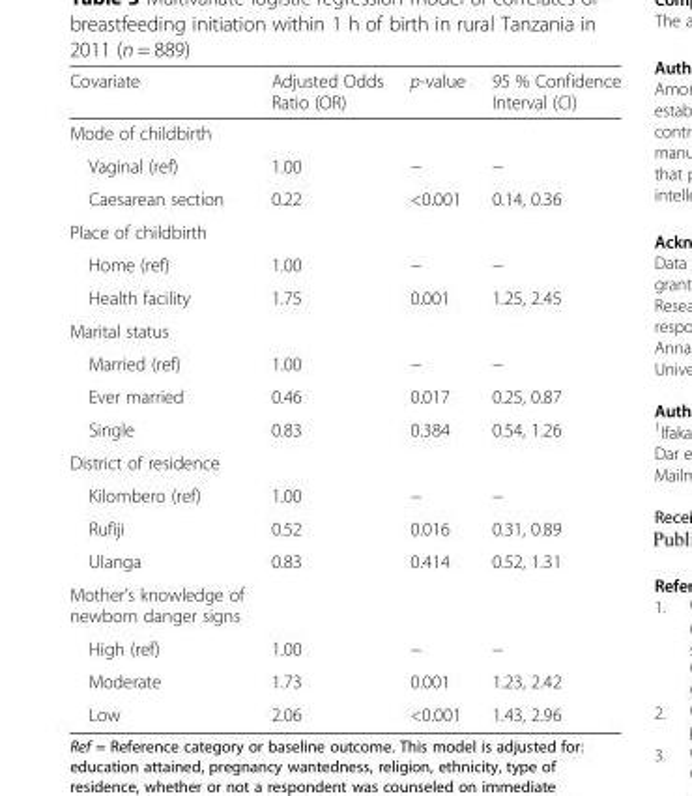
<table><thead><tr><td>Covariate</td><td>Adjusted Odds Ratio (OR)</td><td>p-value</td><td>95 % Confidence Interval (CI)</td></tr></thead><tbody><tr><td colspan="4">Mode of childbirth</td></tr><tr><td>Vaginal (ref)</td><td>1.00</td><td>−</td><td>−</td></tr><tr><td>Caesarean section</td><td>0.22</td><td>&lt;0.001</td><td>0.14, 0.36</td></tr><tr><td colspan="4">Place of childbirth</td></tr><tr><td>Home (ref)</td><td>1.00</td><td>−</td><td>−</td></tr><tr><td>Health facility</td><td>1.75</td><td>0.001</td><td>1.25, 2.45</td></tr><tr><td colspan="4">Marital status</td></tr><tr><td>Married (ref)</td><td>1.00</td><td>−</td><td>−</td></tr><tr><td>Ever married</td><td>0.46</td><td>0.017</td><td>0.25, 0.87</td></tr><tr><td>Single</td><td>0.83</td><td>0.384</td><td>0.54, 1.26</td></tr><tr><td colspan="4">District of residence</td></tr><tr><td>Kilombero (ref)</td><td>1.00</td><td>−</td><td>−</td></tr><tr><td>Rufiji</td><td>0.52</td><td>0.016</td><td>0.31, 0.89</td></tr><tr><td>Ulanga</td><td>0.83</td><td>0.414</td><td>0.52, 1.31</td></tr><tr><td colspan="4">Mother’s knowledge of newborn danger signs</td></tr><tr><td>High (ref)</td><td>1.00</td><td>−</td><td>−</td></tr><tr><td>Moderate</td><td>1.73</td><td>0.001</td><td>1.23, 2.42</td></tr><tr><td>Low</td><td>2.06</td><td>&lt;0.001</td><td>1.43, 2.96</td></tr></tbody></table>